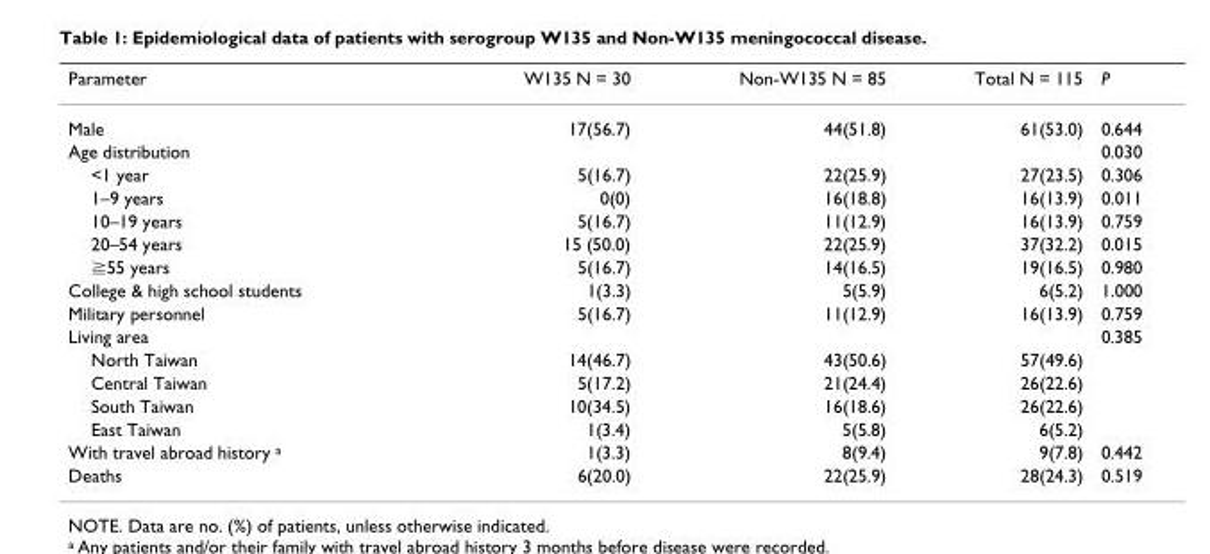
<table><thead><tr><td>Parameter</td><td>W135 N = 30</td><td>Non-W135 N = 85</td><td>Total N = 115</td><td>P</td></tr></thead><tbody><tr><td>Male</td><td>17(56.7)</td><td>44(51.8)</td><td>61(53.0)</td><td>0.644</td></tr><tr><td>Age distribution</td><td></td><td></td><td></td><td>0.030</td></tr><tr><td>&lt;1 year</td><td>5(16.7)</td><td>22(25.9)</td><td>27(23.5)</td><td>0.306</td></tr><tr><td>1–9 years</td><td>0(0)</td><td>16(18.8)</td><td>16(13.9)</td><td>0.011</td></tr><tr><td>10–19 years</td><td>5(16.7)</td><td>11(12.9)</td><td>16(13.9)</td><td>0.759</td></tr><tr><td>20–54 years</td><td>15 (50.0)</td><td>22(25.9)</td><td>37(32.2)</td><td>0.015</td></tr><tr><td>≧55 years</td><td>5(16.7)</td><td>14(16.5)</td><td>19(16.5)</td><td>0.980</td></tr><tr><td>College &amp; high school students</td><td>1(3.3)</td><td>5(5.9)</td><td>6(5.2)</td><td>1.000</td></tr><tr><td>Military personnel</td><td>5(16.7)</td><td>11(12.9)</td><td>16(13.9)</td><td>0.759</td></tr><tr><td>Living area</td><td></td><td></td><td></td><td>0.385</td></tr><tr><td>North Taiwan</td><td>14(46.7)</td><td>43(50.6)</td><td>57(49.6)</td><td></td></tr><tr><td>Central Taiwan</td><td>5(17.2)</td><td>21(24.4)</td><td>26(22.6)</td><td></td></tr><tr><td>South Taiwan</td><td>10(34.5)</td><td>16(18.6)</td><td>26(22.6)</td><td></td></tr><tr><td>East Taiwan</td><td>1(3.4)</td><td>5(5.8)</td><td>6(5.2)</td><td></td></tr><tr><td>With travel abroad history <sup>a</sup></td><td>1(3.3)</td><td>8(9.4)</td><td>9(7.8)</td><td>0.442</td></tr><tr><td>Deaths</td><td>6(20.0)</td><td>22(25.9)</td><td>28(24.3)</td><td>0.519</td></tr></tbody></table>